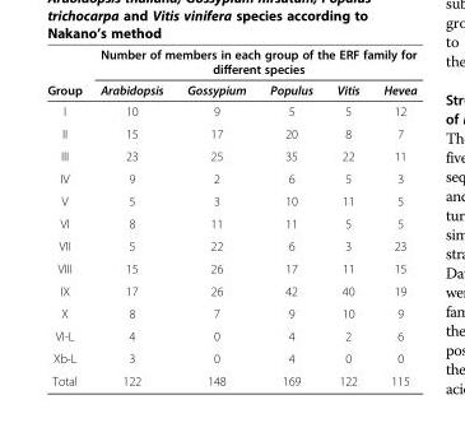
<table><thead><tr><td rowspan="2">Group</td><td colspan="5">Number of members in each group of the ERF family for different species</td></tr><tr><td>Arabidopsis</td><td>Gossypium</td><td>Populus</td><td>Vitis</td><td>Hevea</td></tr></thead><tbody><tr><td>I</td><td>10</td><td>9</td><td>5</td><td>5</td><td>12</td></tr><tr><td>II</td><td>15</td><td>17</td><td>20</td><td>8</td><td>7</td></tr><tr><td>III</td><td>23</td><td>25</td><td>35</td><td>22</td><td>11</td></tr><tr><td>IV</td><td>9</td><td>2</td><td>6</td><td>5</td><td>3</td></tr><tr><td>V</td><td>5</td><td>3</td><td>10</td><td>11</td><td>5</td></tr><tr><td>VI</td><td>8</td><td>11</td><td>11</td><td>5</td><td>5</td></tr><tr><td>VII</td><td>5</td><td>22</td><td>6</td><td>3</td><td>23</td></tr><tr><td>VIII</td><td>15</td><td>26</td><td>17</td><td>11</td><td>15</td></tr><tr><td>IX</td><td>17</td><td>26</td><td>42</td><td>40</td><td>19</td></tr><tr><td>X</td><td>8</td><td>7</td><td>9</td><td>10</td><td>9</td></tr><tr><td>VI-L</td><td>4</td><td>0</td><td>4</td><td>2</td><td>6</td></tr><tr><td>Xb-L</td><td>3</td><td>0</td><td>4</td><td>0</td><td>0</td></tr><tr><td>Total</td><td>122</td><td>148</td><td>169</td><td>122</td><td>115</td></tr></tbody></table>